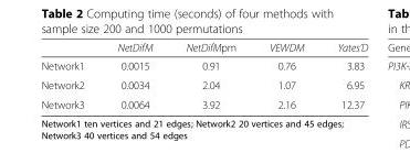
<table><thead><tr><td></td><td>NetDifM</td><td>NetDifMpm</td><td>VEWDM</td><td>Yates’D</td></tr></thead><tbody><tr><td>Network1</td><td>0.0015</td><td>0.91</td><td>0.76</td><td>3.83</td></tr><tr><td>Network2</td><td>0.0034</td><td>2.04</td><td>1.07</td><td>6.95</td></tr><tr><td>Network3</td><td>0.0064</td><td>3.92</td><td>2.16</td><td>12.37</td></tr></tbody></table>